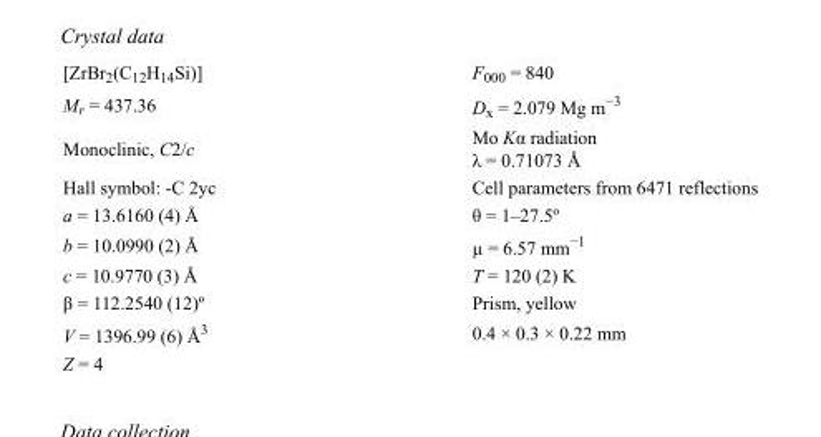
<table><tbody><tr><td>[ZrBr<sub>2</sub>(C<sub>12</sub>H<sub>14</sub>Si)]</td><td>F000 = 840</td></tr><tr><td>M<sub>r</sub> = 437.36</td><td>D<sub>x</sub> = 2.079 Mg m<sup>−3</sup></td></tr><tr><td>Monoclinic, C2/c</td><td>Mo Kα radiation λ = 0.71073 Å</td></tr><tr><td>Hall symbol: -C 2yc</td><td>Cell parameters from 6471 reflections</td></tr><tr><td>a = 13.6160 (4) Å</td><td>θ = 1–27.5º</td></tr><tr><td>b = 10.0990 (2) Å</td><td>µ = 6.57 mm<sup>−1</sup></td></tr><tr><td>c = 10.9770 (3) Å</td><td>T = 120 (2) K</td></tr><tr><td>β = 112.2540 (12)º</td><td>Prism, yellow</td></tr><tr><td>V = 1396.99 (6) Å<sup>3</sup></td><td>0.4 × 0.3 × 0.22 mm</td></tr><tr><td>Z = 4</td><td></td></tr></tbody></table>